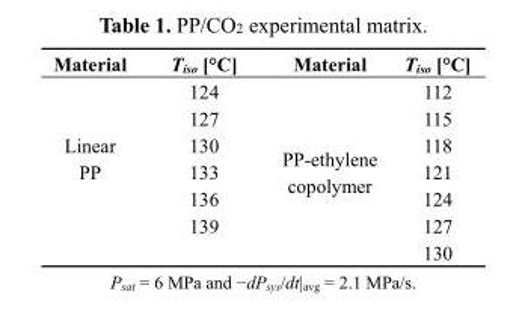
<table><thead><tr><td>Material</td><td>T<sub>iso</sub> [°C]</td><td>Material</td><td>T<sub>iso</sub> [°C]</td></tr></thead><tbody><tr><td rowspan="6">Linear PP</td><td>124</td><td rowspan="7">PP-ethylene copolymer</td><td>112</td></tr><tr><td>127</td><td>115</td></tr><tr><td>130</td><td>118</td></tr><tr><td>133</td><td>121</td></tr><tr><td>136</td><td>124</td></tr><tr><td>139</td><td>127</td></tr><tr><td colspan="2"></td><td>130</td></tr></tbody></table>